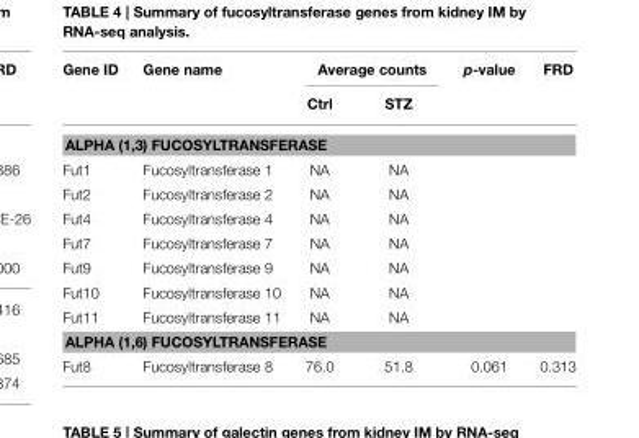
<table><thead><tr><td rowspan="2">Gene ID</td><td rowspan="2">Gene name</td><td colspan="2">Average counts</td><td rowspan="2">p-value</td><td rowspan="2">FRD</td></tr><tr><td>Ctrl</td><td>STZ</td></tr></thead><tbody><tr><td colspan="6">ALPHA (1,3) FUCOSYLTRANSFERASE</td></tr><tr><td>Fut1</td><td>Fucosyltransferase 1</td><td>NA</td><td>NA</td><td></td><td></td></tr><tr><td>Fut2</td><td>Fucosyltransferase 2</td><td>NA</td><td>NA</td><td></td><td></td></tr><tr><td>Fut4</td><td>Fucosyltransferase 4</td><td>NA</td><td>NA</td><td></td><td></td></tr><tr><td>Fut7</td><td>Fucosyltransferase 7</td><td>NA</td><td>NA</td><td></td><td></td></tr><tr><td>Fut9</td><td>Fucosyltransferase 9</td><td>NA</td><td>NA</td><td></td><td></td></tr><tr><td>Fut10</td><td>Fucosyltransferase 10</td><td>NA</td><td>NA</td><td></td><td></td></tr><tr><td>Fut11</td><td>Fucosyltransferase 11</td><td>NA</td><td>NA</td><td></td><td></td></tr><tr><td colspan="6">ALPHA (1,6) FUCOSYLTRANSFERASE</td></tr><tr><td>Fut8</td><td>Fucosyltransferase 8</td><td>76.0</td><td>51.8</td><td>0.061</td><td>0.313</td></tr></tbody></table>